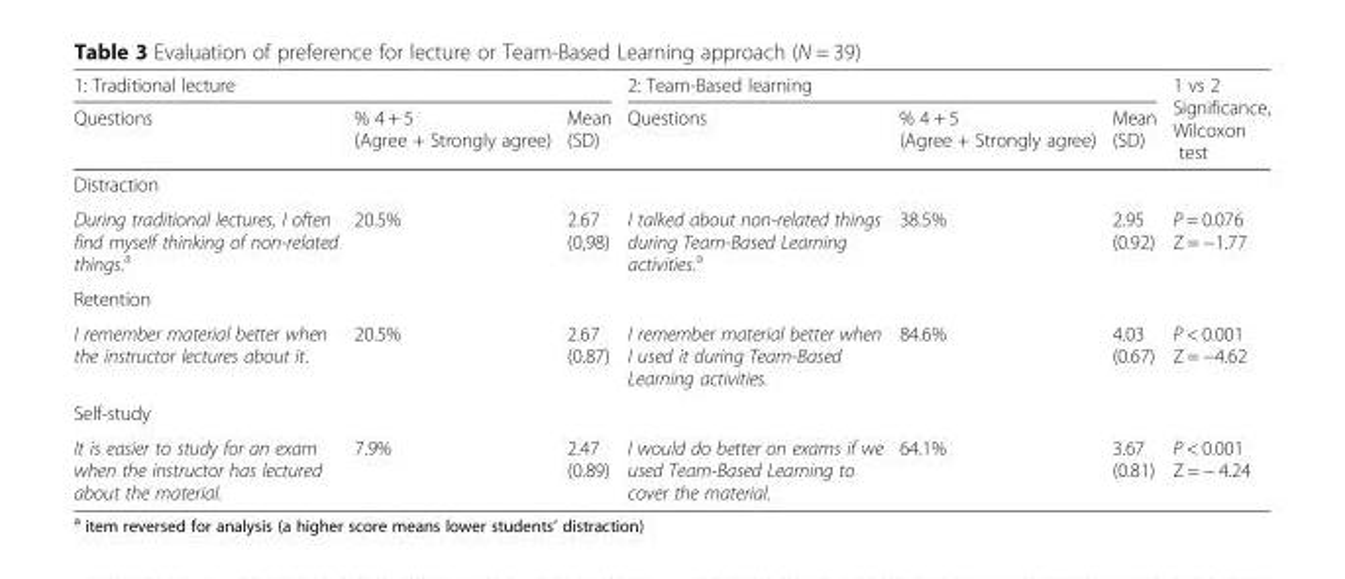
<table><thead><tr><td colspan="3">1: Traditional lecture</td><td colspan="3">2: Team-Based learning</td><td rowspan="2">1 vs 2 Significance, Wilcoxon test</td></tr><tr><td>Questions</td><td>% 4 + 5 (Agree + Strongly agree)</td><td>Mean (SD)</td><td>Questions</td><td>% 4 + 5 (Agree + Strongly agree)</td><td>Mean (SD)</td></tr></thead><tbody><tr><td colspan="7">Distraction</td></tr><tr><td>During traditional lectures, I often find myself thinking of non-related things.<sup>a</sup></td><td>20.5%</td><td>2.67 (0,98)</td><td>I talked about non-related things during Team-Based Learning activities.<sup>a</sup></td><td>38.5%</td><td>2.95 (0.92)</td><td>P = 0.076 Z = −1.77</td></tr><tr><td colspan="7">Retention</td></tr><tr><td>I remember material better when the instructor lectures about it.</td><td>20.5%</td><td>2.67 (0.87)</td><td>I remember material better when I used it during Team-Based Learning activities.</td><td>84.6%</td><td>4.03 (0.67)</td><td>P &lt; 0.001 Z = −4.62</td></tr><tr><td colspan="7">Self-study</td></tr><tr><td>It is easier to study for an exam when the instructor has lectured about the material.</td><td>7.9%</td><td>2.47 (0.89)</td><td>I would do better on exams if we used Team-Based Learning to cover the material.</td><td>64.1%</td><td>3.67 (0.81)</td><td>P &lt; 0.001 Z = − 4.24</td></tr></tbody></table>